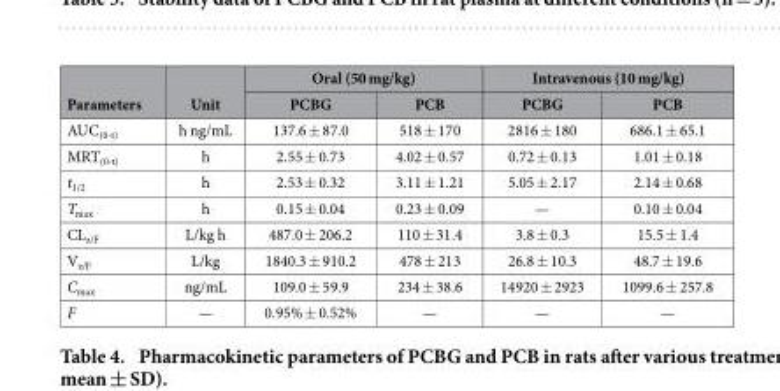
<table><thead><tr><td rowspan="2">Parameters</td><td rowspan="2">Unit</td><td colspan="2">Oral (50 mg/kg)</td><td colspan="2">Intravenous (10 mg/kg)</td></tr><tr><td>PCBG</td><td>PCB</td><td>PCBG</td><td>PCB</td></tr></thead><tbody><tr><td>AUC<sub>(0-t)</sub></td><td>h ng/mL</td><td>137.6 ± 87.0</td><td>518 ± 170</td><td>2816 ± 180</td><td>686.1 ± 65.1</td></tr><tr><td>MRT<sub>(0-t)</sub></td><td>h</td><td>2.55 ± 0.73</td><td>4.02 ± 0.57</td><td>0.72 ± 0.13</td><td>1.01 ± 0.18</td></tr><tr><td>t<sub>1/2</sub></td><td>h</td><td>2.53 ± 0.32</td><td>3.11 ± 1.21</td><td>5.05 ± 2.17</td><td>2.14 ± 0.68</td></tr><tr><td>T<sub>max</sub></td><td>h</td><td>0.15 ± 0.04</td><td>0.23 ± 0.09</td><td>—</td><td>0.10 ± 0.04</td></tr><tr><td>CL<sub>z/F</sub></td><td>L/kg h</td><td>487.0 ± 206.2</td><td>110 ± 31.4</td><td>3.8 ± 0.3</td><td>15.5 ± 1.4</td></tr><tr><td>V<sub>z/F</sub></td><td>L/kg</td><td>1840.3 ± 910.2</td><td>478 ± 213</td><td>26.8 ± 10.3</td><td>48.7 ± 19.6</td></tr><tr><td>C<sub>max</sub></td><td>ng/mL</td><td>109.0 ± 59.9</td><td>234 ± 38.6</td><td>14920 ± 2923</td><td>1099.6 ± 257.8</td></tr><tr><td>F</td><td>—</td><td>0.95% ± 0.52%</td><td>—</td><td>—</td><td>—</td></tr></tbody></table>